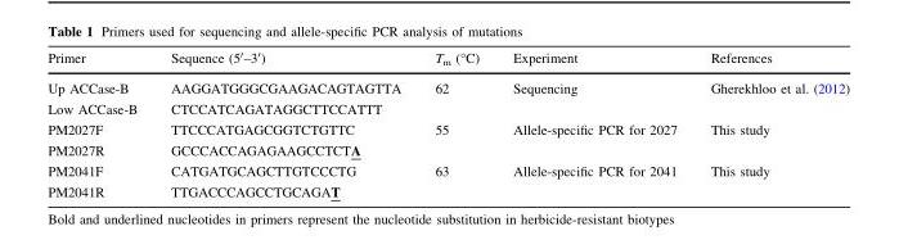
<table><thead><tr><td>Primer</td><td>Sequence (5′–3′)</td><td>T<sub>m</sub> (°C)</td><td>Experiment</td><td>References</td></tr></thead><tbody><tr><td>Up ACCase-B</td><td>AAGGATGGGCGAAGACAGTAGTTA</td><td rowspan="2">62</td><td rowspan="2">Sequencing</td><td rowspan="2">Gherekhloo et al. (2012)</td></tr><tr><td>Low ACCase-B</td><td>CTCCATCAGATAGGCTTCCATTT</td></tr><tr><td>PM2027F</td><td>TTCCCATGAGCGGTCTGTTC</td><td rowspan="2">55</td><td rowspan="2">Allele-specific PCR for 2027</td><td rowspan="2">This study</td></tr><tr><td>PM2027R</td><td>GCCCACCAGAGAAGCCTCTA</td></tr><tr><td>PM2041F</td><td>CATGATGCAGCTTGTCCCTG</td><td rowspan="2">63</td><td rowspan="2">Allele-specific PCR for 2041</td><td rowspan="2">This study</td></tr><tr><td>PM2041R</td><td>TTGACCCAGCCTGCAGAT</td></tr></tbody></table>